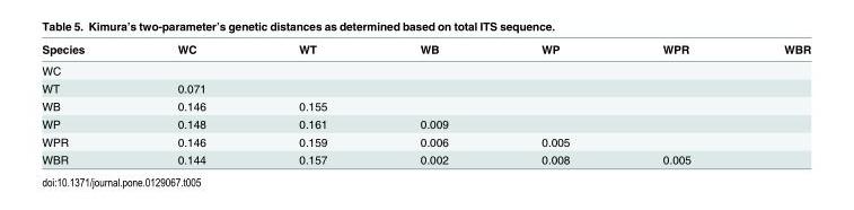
<table><thead><tr><td>Species</td><td>WC</td><td>WT</td><td>WB</td><td>WP</td><td>WPR</td><td>WBR</td></tr></thead><tbody><tr><td colspan="7">WC</td></tr><tr><td>WT</td><td>0.071</td><td></td><td></td><td></td><td></td><td></td></tr><tr><td>WB</td><td>0.146</td><td>0.155</td><td></td><td></td><td></td><td></td></tr><tr><td>WP</td><td>0.148</td><td>0.161</td><td>0.009</td><td></td><td></td><td></td></tr><tr><td>WPR</td><td>0.146</td><td>0.159</td><td>0.006</td><td>0.005</td><td></td><td></td></tr><tr><td>WBR</td><td>0.144</td><td>0.157</td><td>0.002</td><td>0.008</td><td>0.005</td><td></td></tr></tbody></table>